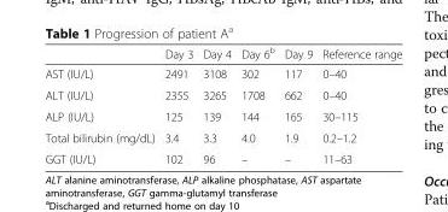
<table><thead><tr><td></td><td>Day 3</td><td>Day 4</td><td>Day 6<sup>b</sup></td><td>Day 9</td><td>Reference range</td></tr></thead><tbody><tr><td>AST (IU/L)</td><td>2491</td><td>3108</td><td>302</td><td>117</td><td>0–40</td></tr><tr><td>ALT (IU/L)</td><td>2355</td><td>3265</td><td>1708</td><td>662</td><td>0–40</td></tr><tr><td>ALP (IU/L)</td><td>125</td><td>139</td><td>144</td><td>165</td><td>30–115</td></tr><tr><td>Total bilirubin (mg/dL)</td><td>3.4</td><td>3.3</td><td>4.0</td><td>1.9</td><td>0.2–1.2</td></tr><tr><td>GGT (IU/L)</td><td>102</td><td>96</td><td>–</td><td>–</td><td>11–63</td></tr></tbody></table>